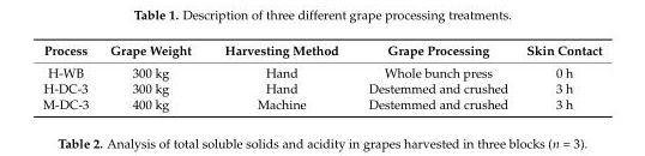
<table><thead><tr><td>Process</td><td>Grape Weight</td><td>Harvesting Method</td><td>Grape Processing</td><td>Skin Contact</td></tr></thead><tbody><tr><td>H-WB</td><td>300 kg</td><td>Hand</td><td>Whole bunch press</td><td>0 h</td></tr><tr><td>H-DC-3</td><td>300 kg</td><td>Hand</td><td>Destemmed and crushed</td><td>3 h</td></tr><tr><td>M-DC-3</td><td>400 kg</td><td>Machine</td><td>Destemmed and crushed</td><td>3 h</td></tr></tbody></table>